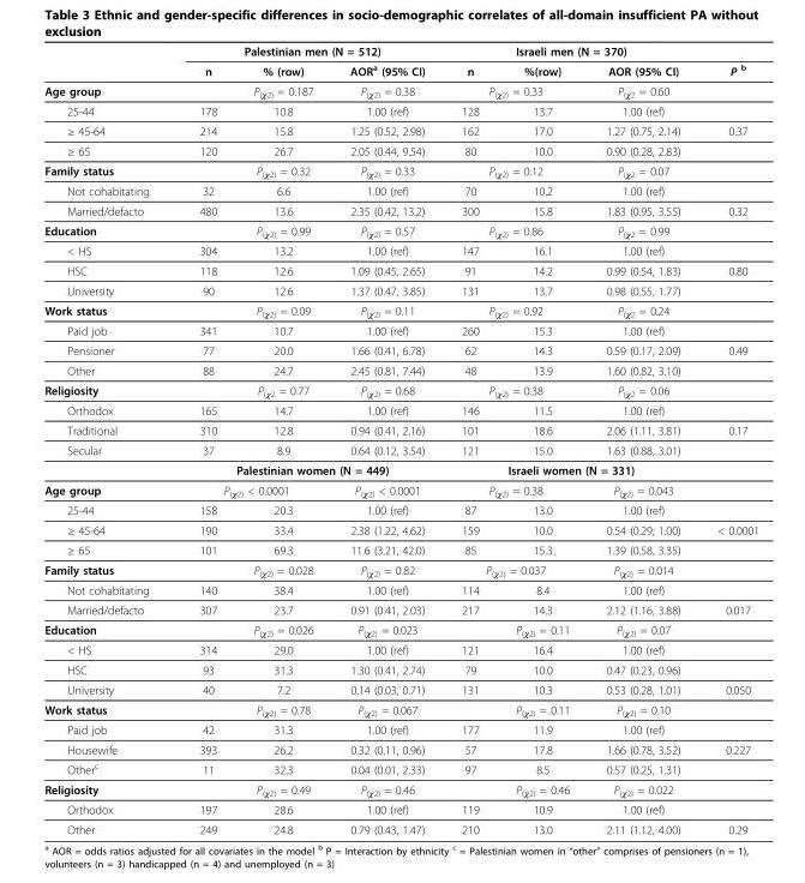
<table><thead><tr><td rowspan="2"></td><td colspan="3">Palestinian men (N = 512)</td><td colspan="3">Israeli men (N = 370)</td><td rowspan="2">P <sup>b</sup></td></tr><tr><td>n</td><td>% (row)</td><td>AOR<sup>a</sup> (95% CI)</td><td>n</td><td>%(row)</td><td>AOR (95% CI)</td></tr></thead><tbody><tr><td>Age group</td><td></td><td>P<sub>(χ2)</sub> = 0.187</td><td>P<sub>(χ2)</sub> = 0.38</td><td colspan="2">P<sub>(χ2)</sub> = 0.33</td><td>P<sub>(χ2</sub> = 0.60</td><td></td></tr><tr><td>25-44</td><td>178</td><td>10.8</td><td>1.00 (ref)</td><td>128</td><td>13.7</td><td>1.00 (ref)</td><td></td></tr><tr><td>≥ 45-64</td><td>214</td><td>15.8</td><td>1.25 (0.52, 2.98)</td><td>162</td><td>17.0</td><td>1.27 (0.75, 2.14)</td><td>0.37</td></tr><tr><td>≥ 65</td><td>120</td><td>26.7</td><td>2.05 (0.44, 9.54)</td><td>80</td><td>10.0</td><td>0.90 (0.28, 2.83)</td><td></td></tr><tr><td>Family status</td><td></td><td>P<sub>(χ2)</sub> = 0.32</td><td>P<sub>(χ2)</sub> = 0.33</td><td colspan="2">P<sub>(χ2)</sub> = 0.12</td><td>P<sub>(χ2</sub> = 0.07</td><td></td></tr><tr><td>Not cohabitating</td><td>32</td><td>6.6</td><td>1.00 (ref)</td><td>70</td><td>10.2</td><td>1.00 (ref)</td><td></td></tr><tr><td>Married/defacto</td><td>480</td><td>13.6</td><td>2.35 (0.42, 13.2)</td><td>300</td><td>15.8</td><td>1.83 (0.95, 3.55)</td><td>0.32</td></tr><tr><td>Education</td><td></td><td>P<sub>(χ2)</sub> = 0.99</td><td>P<sub>(χ2)</sub> = 0.57</td><td colspan="2">P<sub>(χ2)</sub> = 0.86</td><td>P<sub>(χ2</sub> = 0.99</td><td></td></tr><tr><td>&lt; HS</td><td>304</td><td>13.2</td><td>1.00 (ref)</td><td>147</td><td>16.1</td><td>1.00 (ref)</td><td></td></tr><tr><td>HSC</td><td>118</td><td>12.6</td><td>1.09 (0.45, 2.65)</td><td>91</td><td>14.2</td><td>0.99 (0.54, 1.83)</td><td>0.80</td></tr><tr><td>University</td><td>90</td><td>12.6</td><td>1.37 (0.47, 3.85)</td><td>131</td><td>13.7</td><td>0.98 (0.55, 1.77)</td><td></td></tr><tr><td>Work status</td><td></td><td>P<sub>(χ2)</sub> = 0.09</td><td>P<sub>(χ2)</sub> = 0.11</td><td colspan="2">P<sub>(χ2)</sub> = 0.92</td><td>P<sub>(χ2</sub> = 0.24</td><td></td></tr><tr><td>Paid job</td><td>341</td><td>10.7</td><td>1.00 (ref)</td><td>260</td><td>15.3</td><td>1.00 (ref)</td><td></td></tr><tr><td>Pensioner</td><td>77</td><td>20.0</td><td>1.66 (0.41, 6.78)</td><td>62</td><td>14.3</td><td>0.59 (0.17, 2.09)</td><td>0.49</td></tr><tr><td>Other</td><td>88</td><td>24.7</td><td>2.45 (0.81, 7.44)</td><td>48</td><td>13.9</td><td>1.60 (0.82, 3.10)</td><td></td></tr><tr><td>Religiosity</td><td></td><td>P<sub>(χ2</sub> = 0.77</td><td>P<sub>(χ2)</sub> = 0.68</td><td colspan="2">P<sub>(χ2)</sub> = 0.38</td><td>P<sub>(χ2</sub> = 0.06</td><td></td></tr><tr><td>Orthodox</td><td>165</td><td>14.7</td><td>1.00 (ref)</td><td>146</td><td>11.5</td><td>1.00 (ref)</td><td></td></tr><tr><td>Traditional</td><td>310</td><td>12.8</td><td>0.94 (0.41, 2.16)</td><td>101</td><td>18.6</td><td>2.06 (1.11, 3.81)</td><td>0.17</td></tr><tr><td rowspan="2">Secular</td><td>37</td><td>8.9</td><td>0.64 (0.12, 3.54)</td><td>121</td><td>15.0</td><td>1.63 (0.88, 3.01)</td><td></td></tr><tr><td colspan="3">Palestinian women (N = 449)</td><td colspan="3">Israeli women (N = 331)</td><td></td></tr><tr><td>Age group</td><td colspan="2">P<sub>(χ2)</sub> &lt; 0.0001</td><td>P<sub>(χ2)</sub> &lt; 0.0001</td><td colspan="2">P<sub>(χ2)</sub> = 0.38</td><td>P<sub>(χ2)</sub> = 0.043</td><td></td></tr><tr><td>25-44</td><td>158</td><td>20.3</td><td>1.00 (ref)</td><td>87</td><td>13.0</td><td>1.00 (ref)</td><td></td></tr><tr><td>≥ 45-64</td><td>190</td><td>33.4</td><td>2.38 (1.22, 4.62)</td><td>159</td><td>10.0</td><td>0.54 (0.29; 1.00)</td><td>&lt; 0.0001</td></tr><tr><td>≥ 65</td><td>101</td><td>69.3</td><td>11.6 (3.21, 42.0)</td><td>85</td><td>15.3</td><td>1.39 (0.58, 3.35)</td><td></td></tr><tr><td>Family status</td><td></td><td>P<sub>(χ2)</sub> = 0.028</td><td>P<sub>(χ2)</sub> = 0.82</td><td colspan="2">P<sub>(χ2)</sub> = 0.037</td><td>P<sub>(χ2)</sub> = 0.014</td><td></td></tr><tr><td>Not cohabitating</td><td>140</td><td>38.4</td><td>1.00 (ref)</td><td>114</td><td>8.4</td><td>1.00 (ref)</td><td></td></tr><tr><td>Married/defacto</td><td>307</td><td>23.7</td><td>0.91 (0.41, 2.03)</td><td>217</td><td>14.3</td><td>2.12 (1.16, 3.88)</td><td>0.017</td></tr><tr><td>Education</td><td></td><td>P<sub>(χ2)</sub> = 0.026</td><td>P<sub>(χ2)</sub> = 0.023</td><td></td><td>P<sub>(χ2)</sub> = 0.11</td><td>P<sub>(χ2)</sub> = 0.07</td><td></td></tr><tr><td>&lt; HS</td><td>314</td><td>29.0</td><td>1.00 (ref)</td><td>121</td><td>16.4</td><td>1.00 (ref)</td><td></td></tr><tr><td>HSC</td><td>93</td><td>31.3</td><td>1.30 (0.41, 2.74)</td><td>79</td><td>10.0</td><td>0.47 (0.23, 0.96)</td><td></td></tr><tr><td>University</td><td>40</td><td>7.2</td><td>0.14 (0.03, 0.71)</td><td>131</td><td>10.3</td><td>0.53 (0.28, 1.01)</td><td>0.050</td></tr><tr><td>Work status</td><td></td><td>P<sub>(χ2)</sub> = 0.78</td><td>P<sub>(χ2)</sub> = 0.067</td><td></td><td>P<sub>(χ2)</sub> = 0.11</td><td>P<sub>(χ2)</sub> = 0.10</td><td></td></tr><tr><td>Paid job</td><td>42</td><td>31.3</td><td>1.00 (ref)</td><td>177</td><td>11.9</td><td>1.00 (ref)</td><td></td></tr><tr><td>Housewife</td><td>393</td><td>26.2</td><td>0.32 (0.11, 0.96)</td><td>57</td><td>17.8</td><td>1.66 (0.78, 3.52)</td><td>0.227</td></tr><tr><td>Other<sup>c</sup></td><td>11</td><td>32.3</td><td>0.04 (0.01, 2.33)</td><td>97</td><td>8.5</td><td>0.57 (0.25, 1.31)</td><td></td></tr><tr><td>Religiosity</td><td></td><td>P<sub>(χ2)</sub> = 0.49</td><td>P<sub>(χ2)</sub> = 0.46</td><td></td><td>P<sub>(χ2)</sub> = 0.46</td><td>P<sub>(χ2)</sub> = 0.022</td><td></td></tr><tr><td>Orthodox</td><td>197</td><td>28.6</td><td>1.00 (ref)</td><td>119</td><td>10.9</td><td>1.00 (ref)</td><td></td></tr><tr><td>Other</td><td>249</td><td>24.8</td><td>0.79 (0.43, 1.47)</td><td>210</td><td>13.0</td><td>2.11 (1.12, 4.00)</td><td>0.29</td></tr></tbody></table>